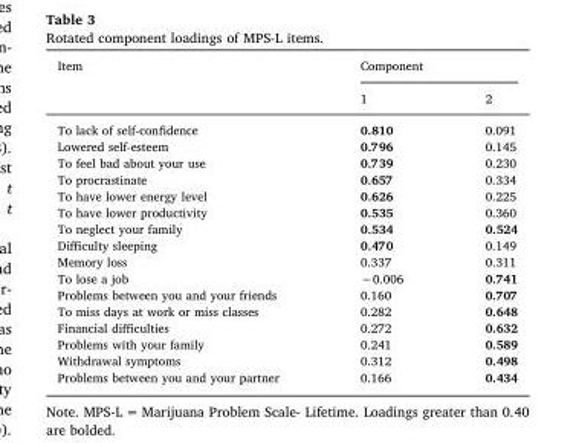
<table><thead><tr><td rowspan="2">Item</td><td colspan="2">Component</td></tr><tr><td>1</td><td>2</td></tr></thead><tbody><tr><td>To lack of self-confidence</td><td>0.810</td><td>0.091</td></tr><tr><td>Lowered self-esteem</td><td>0.796</td><td>0.145</td></tr><tr><td>To feel bad about your use</td><td>0.739</td><td>0.230</td></tr><tr><td>To procrastinate</td><td>0.657</td><td>0.334</td></tr><tr><td>To have lower energy level</td><td>0.626</td><td>0.225</td></tr><tr><td>To have lower productivity</td><td>0.535</td><td>0.360</td></tr><tr><td>To neglect your family</td><td>0.534</td><td>0.524</td></tr><tr><td>Difficulty sleeping</td><td>0.470</td><td>0.149</td></tr><tr><td>Memory loss</td><td>0.337</td><td>0.311</td></tr><tr><td>To lose a job</td><td>−0.006</td><td>0.741</td></tr><tr><td>Problems between you and your friends</td><td>0.160</td><td>0.707</td></tr><tr><td>To miss days at work or miss classes</td><td>0.282</td><td>0.648</td></tr><tr><td>Financial difficulties</td><td>0.272</td><td>0.632</td></tr><tr><td>Problems with your family</td><td>0.241</td><td>0.589</td></tr><tr><td>Withdrawal symptoms</td><td>0.312</td><td>0.498</td></tr><tr><td>Problems between you and your partner</td><td>0.166</td><td>0.434</td></tr></tbody></table>